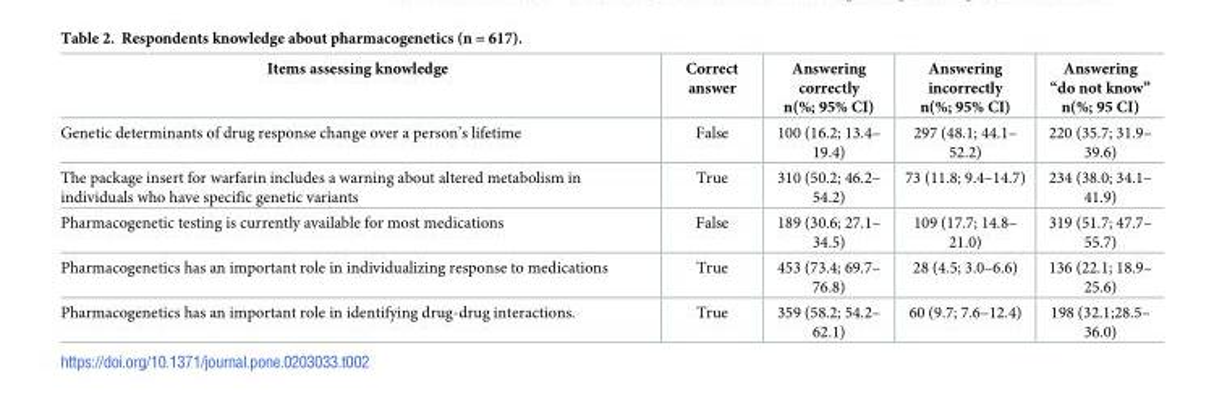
<table><thead><tr><td>Items assessing knowledge</td><td>Correct answer</td><td>Answering correctly n(%; 95% CI)</td><td>Answering incorrectly n(%; 95% CI)</td><td>Answering “do not know” n(%; 95 CI)</td></tr></thead><tbody><tr><td>Genetic determinants of drug response change over a person’s lifetime</td><td>False</td><td>100 (16.2; 13.4– 19.4)</td><td>297 (48.1; 44.1– 52.2)</td><td>220 (35.7; 31.9– 39.6)</td></tr><tr><td>The package insert for warfarin includes a warning about altered metabolism in individuals who have specific genetic variants</td><td>True</td><td>310 (50.2; 46.2– 54.2)</td><td>73 (11.8; 9.4–14.7)</td><td>234 (38.0; 34.1– 41.9)</td></tr><tr><td>Pharmacogenetic testing is currently available for most medications</td><td>False</td><td>189 (30.6; 27.1– 34.5)</td><td>109 (17.7; 14.8– 21.0)</td><td>319 (51.7; 47.7– 55.7)</td></tr><tr><td>Pharmacogenetics has an important role in individualizing response to medications</td><td>True</td><td>453 (73.4; 69.7– 76.8)</td><td>28 (4.5; 3.0–6.6)</td><td>136 (22.1; 18.9– 25.6)</td></tr><tr><td>Pharmacogenetics has an important role in identifying drug-drug interactions.</td><td>True</td><td>359 (58.2; 54.2– 62.1)</td><td>60 (9.7; 7.6–12.4)</td><td>198 (32.1;28.5– 36.0)</td></tr></tbody></table>